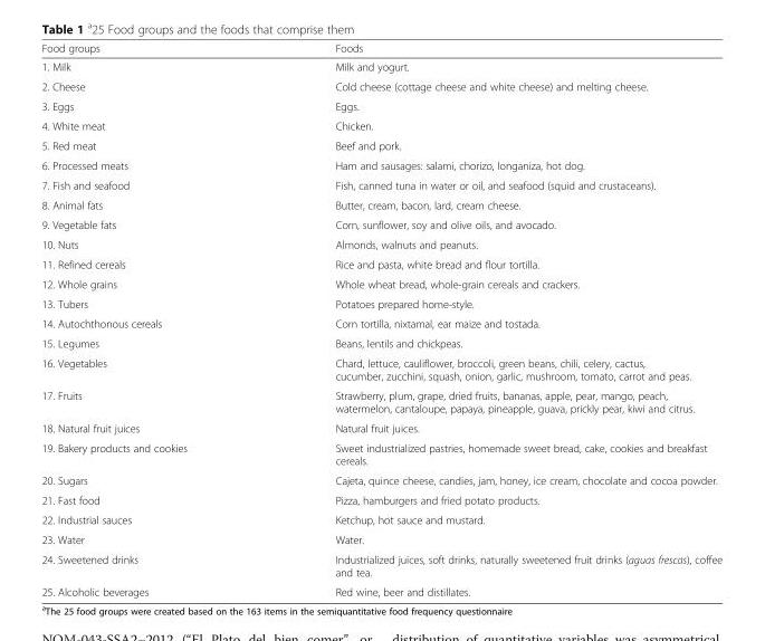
<table><thead><tr><td>Food groups</td><td>Foods</td></tr></thead><tbody><tr><td>1. Milk</td><td>Milk and yogurt.</td></tr><tr><td>2. Cheese</td><td>Cold cheese (cottage cheese and white cheese) and melting cheese.</td></tr><tr><td>3. Eggs</td><td>Eggs.</td></tr><tr><td>4. White meat</td><td>Chicken.</td></tr><tr><td>5. Red meat</td><td>Beef and pork.</td></tr><tr><td>6. Processed meats</td><td>Ham and sausages: salami, chorizo, longaniza, hot dog.</td></tr><tr><td>7. Fish and seafood</td><td>Fish, canned tuna in water or oil, and seafood (squid and crustaceans).</td></tr><tr><td>8. Animal fats</td><td>Butter, cream, bacon, lard, cream cheese.</td></tr><tr><td>9. Vegetable fats</td><td>Corn, sunflower, soy and olive oils, and avocado.</td></tr><tr><td>10. Nuts</td><td>Almonds, walnuts and peanuts.</td></tr><tr><td>11. Refined cereals</td><td>Rice and pasta, white bread and flour tortilla.</td></tr><tr><td>12. Whole grains</td><td>Whole wheat bread, whole-grain cereals and crackers.</td></tr><tr><td>13. Tubers</td><td>Potatoes prepared home-style.</td></tr><tr><td>14. Autochthonous cereals</td><td>Corn tortilla, nixtamal, ear maize and tostada.</td></tr><tr><td>15. Legumes</td><td>Beans, lentils and chickpeas.</td></tr><tr><td>16. Vegetables</td><td>Chard, lettuce, cauliflower, broccoli, green beans, chili, celery, cactus, cucumber, zucchini, squash, onion, garlic, mushroom, tomato, carrot and peas.</td></tr><tr><td>17. Fruits</td><td>Strawberry, plum, grape, dried fruits, bananas, apple, pear, mango, peach, watermelon, cantaloupe, papaya, pineapple, guava, prickly pear, kiwi and citrus.</td></tr><tr><td>18. Natural fruit juices</td><td>Natural fruit juices.</td></tr><tr><td>19. Bakery products and cookies</td><td>Sweet industrialized pastries, homemade sweet bread, cake, cookies and breakfast cereals.</td></tr><tr><td>20. Sugars</td><td>Cajeta, quince cheese, candies, jam, honey, ice cream, chocolate and cocoa powder.</td></tr><tr><td>21. Fast food</td><td>Pizza, hamburgers and fried potato products.</td></tr><tr><td>22. Industrial sauces</td><td>Ketchup, hot sauce and mustard.</td></tr><tr><td>23. Water</td><td>Water.</td></tr><tr><td>24. Sweetened drinks</td><td>Industrialized juices, soft drinks, naturally sweetened fruit drinks (aguas frescas), coffee and tea.</td></tr><tr><td>25. Alcoholic beverages</td><td>Red wine, beer and distillates.</td></tr></tbody></table>